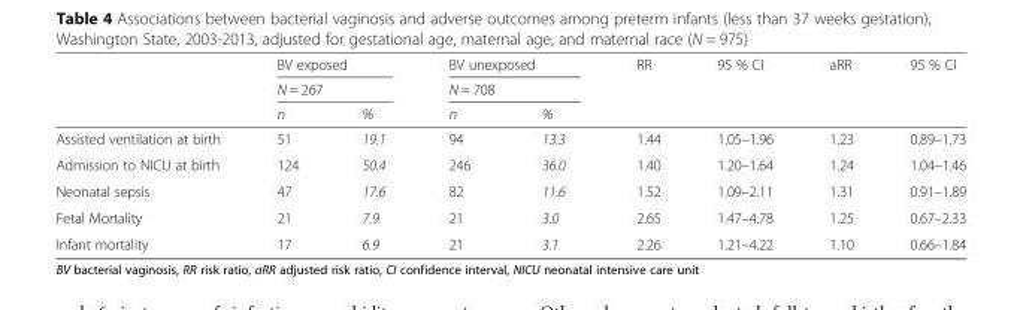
<table><thead><tr><td rowspan="3"></td><td rowspan="2" colspan="2">BV exposed N = 267</td><td rowspan="2" colspan="2">BV unexposed N = 708</td><td rowspan="3">RR</td><td rowspan="3">95 % CI</td><td rowspan="3">aRR</td><td rowspan="3">95 % CI</td></tr><tr></tr><tr><td>n</td><td>%</td><td>n</td><td>%</td></tr></thead><tbody><tr><td>Assisted ventilation at birth</td><td>51</td><td>19.1</td><td>94</td><td>13.3</td><td>1.44</td><td>1.05–1.96</td><td>1.23</td><td>0.89–1.73</td></tr><tr><td>Admission to NICU at birth</td><td>124</td><td>50.4</td><td>246</td><td>36.0</td><td>1.40</td><td>1.20–1.64</td><td>1.24</td><td>1.04–1.46</td></tr><tr><td>Neonatal sepsis</td><td>47</td><td>17.6</td><td>82</td><td>11.6</td><td>1.52</td><td>1.09–2.11</td><td>1.31</td><td>0.91–1.89</td></tr><tr><td>Fetal Mortality</td><td>21</td><td>7.9</td><td>21</td><td>3.0</td><td>2.65</td><td>1.47–4.78</td><td>1.25</td><td>0.67–2.33</td></tr><tr><td>Infant mortality</td><td>17</td><td>6.9</td><td>21</td><td>3.1</td><td>2.26</td><td>1.21–4.22</td><td>1.10</td><td>0.66–1.84</td></tr></tbody></table>